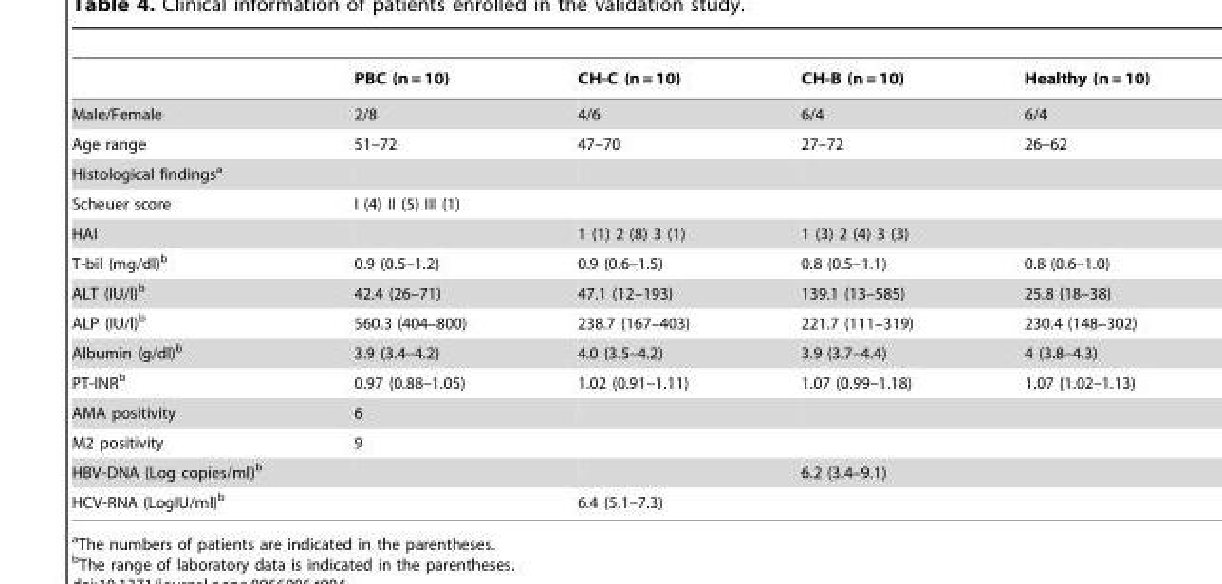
<table><thead><tr><td></td><td>PBC (n = 10)</td><td>CH-C (n = 10)</td><td>CH-B (n = 10)</td><td>Healthy (n = 10)</td></tr></thead><tbody><tr><td>Male/Female</td><td>2/8</td><td>4/6</td><td>6/4</td><td>6/4</td></tr><tr><td>Age range</td><td>51–72</td><td>47–70</td><td>27–72</td><td>26–62</td></tr><tr><td colspan="5">Histological findings<sup>a</sup></td></tr><tr><td>Scheuer score</td><td>I (4) II (5) III (1)</td><td></td><td></td><td></td></tr><tr><td>HAI</td><td></td><td>1 (1) 2 (8) 3 (1)</td><td>1 (3) 2 (4) 3 (3)</td><td></td></tr><tr><td>T-bil (mg/dl)<sup>b</sup></td><td>0.9 (0.5–1.2)</td><td>0.9 (0.6–1.5)</td><td>0.8 (0.5–1.1)</td><td>0.8 (0.6–1.0)</td></tr><tr><td>ALT (IU/l)<sup>b</sup></td><td>42.4 (26–71)</td><td>47.1 (12–193)</td><td>139.1 (13–585)</td><td>25.8 (18–38)</td></tr><tr><td>ALP (IU/l)<sup>b</sup></td><td>560.3 (404–800)</td><td>238.7 (167–403)</td><td>221.7 (111–319)</td><td>230.4 (148–302)</td></tr><tr><td>Albumin (g/dl)<sup>b</sup></td><td>3.9 (3.4–4.2)</td><td>4.0 (3.5–4.2)</td><td>3.9 (3.7–4.4)</td><td>4 (3.8–4.3)</td></tr><tr><td>PT-INR<sup>b</sup></td><td>0.97 (0.88–1.05)</td><td>1.02 (0.91–1.11)</td><td>1.07 (0.99–1.18)</td><td>1.07 (1.02–1.13)</td></tr><tr><td>AMA positivity</td><td>6</td><td></td><td></td><td></td></tr><tr><td>M2 positivity</td><td>9</td><td></td><td></td><td></td></tr><tr><td>HBV-DNA (Log copies/ml)<sup>b</sup></td><td></td><td></td><td>6.2 (3.4–9.1)</td><td></td></tr><tr><td>HCV-RNA (LogIU/ml)<sup>b</sup></td><td></td><td>6.4 (5.1–7.3)</td><td></td><td></td></tr></tbody></table>